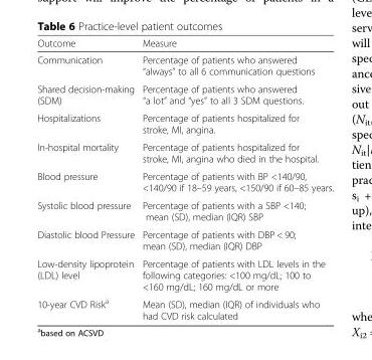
<table><thead><tr><td>Outcome</td><td>Measure</td></tr></thead><tbody><tr><td>Communication</td><td>Percentage of patients who answered “always” to all 6 communication questions</td></tr><tr><td>Shared decision-making (SDM)</td><td>Percentage of patients who answered “a lot” and “yes” to all 3 SDM questions.</td></tr><tr><td>Hospitalizations</td><td>Percentage of patients hospitalized for stroke, MI, angina.</td></tr><tr><td>In-hospital mortality</td><td>Percentage of patients hospitalized for stroke, MI, angina who died in the hospital.</td></tr><tr><td>Blood pressure</td><td>Percentage of patients with BP &lt;140/90, &lt;140/90 if 18–59 years, &lt;150/90 if 60–85 years.</td></tr><tr><td>Systolic blood pressure</td><td>Percentage of patients with a SBP &lt;140; mean (SD), median (IQR) SBP</td></tr><tr><td>Diastolic blood Pressure</td><td>Percentage of patients with DBP &lt; 90; mean (SD), median (IQR) DBP</td></tr><tr><td>Low-density lipoprotein (LDL) level</td><td>Percentage of patients with LDL levels in the following categories: &lt;100 mg/dL; 100 to &lt;160 mg/dL; 160 mg/dL or more</td></tr><tr><td>10-year CVD Risk<sup>a</sup></td><td>Mean (SD), median (IQR) of individuals who had CVD risk calculated</td></tr></tbody></table>